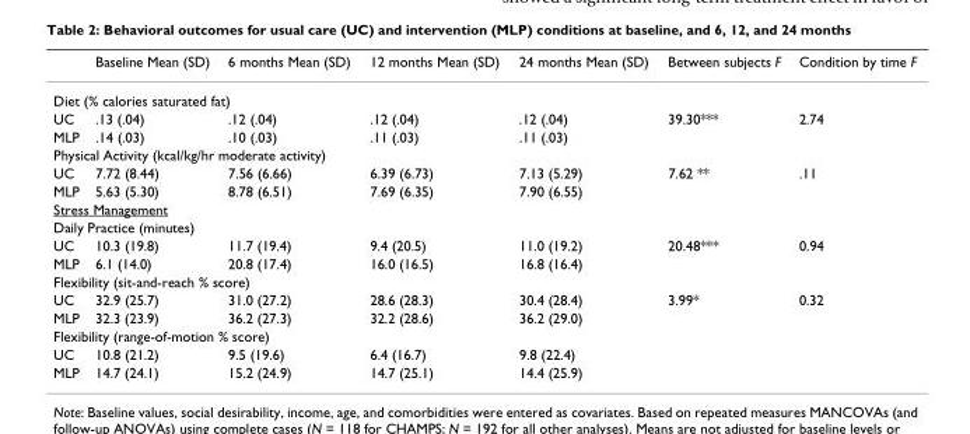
<table><thead><tr><td></td><td>Baseline Mean (SD)</td><td>6 months Mean (SD)</td><td>12 months Mean (SD)</td><td>24 months Mean (SD)</td><td>Between subjects F</td><td>Condition by time F</td></tr></thead><tbody><tr><td colspan="7">Diet (% calories saturated fat)</td></tr><tr><td>UC</td><td>.13 (.04)</td><td>.12 (.04)</td><td>.12 (.04)</td><td>.12 (.04)</td><td>39.30***</td><td>2.74</td></tr><tr><td>MLP</td><td>.14 (.03)</td><td>.10 (.03)</td><td>.11 (.03)</td><td>.11 (.03)</td><td></td><td></td></tr><tr><td colspan="7">Physical Activity (kcal/kg/hr moderate activity)</td></tr><tr><td>UC</td><td>7.72 (8.44)</td><td>7.56 (6.66)</td><td>6.39 (6.73)</td><td>7.13 (5.29)</td><td>7.62 **</td><td>.11</td></tr><tr><td>MLP</td><td>5.63 (5.30)</td><td>8.78 (6.51)</td><td>7.69 (6.35)</td><td>7.90 (6.55)</td><td></td><td></td></tr><tr><td colspan="7">Stress Management</td></tr><tr><td colspan="7">Daily Practice (minutes)</td></tr><tr><td>UC</td><td>10.3 (19.8)</td><td>11.7 (19.4)</td><td>9.4 (20.5)</td><td>11.0 (19.2)</td><td>20.48***</td><td>0.94</td></tr><tr><td>MLP</td><td>6.1 (14.0)</td><td>20.8 (17.4)</td><td>16.0 (16.5)</td><td>16.8 (16.4)</td><td></td><td></td></tr><tr><td colspan="7">Flexibility (sit-and-reach % score)</td></tr><tr><td>UC</td><td>32.9 (25.7)</td><td>31.0 (27.2)</td><td>28.6 (28.3)</td><td>30.4 (28.4)</td><td>3.99*</td><td>0.32</td></tr><tr><td>MLP</td><td>32.3 (23.9)</td><td>36.2 (27.3)</td><td>32.2 (28.6)</td><td>36.2 (29.0)</td><td></td><td></td></tr><tr><td colspan="7">Flexibility (range-of-motion % score)</td></tr><tr><td>UC</td><td>10.8 (21.2)</td><td>9.5 (19.6)</td><td>6.4 (16.7)</td><td>9.8 (22.4)</td><td></td><td></td></tr><tr><td>MLP</td><td>14.7 (24.1)</td><td>15.2 (24.9)</td><td>14.7 (25.1)</td><td>14.4 (25.9)</td><td></td><td></td></tr></tbody></table>